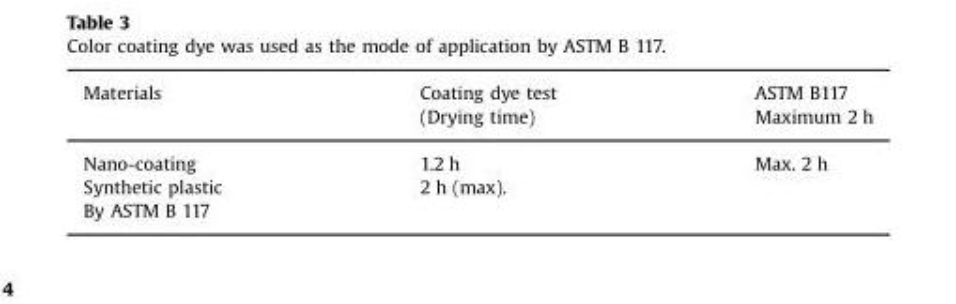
<table><thead><tr><td rowspan="2">Materials</td><td rowspan="2">Coating dye test (Drying time)</td><td rowspan="2">ASTM B117 Maximum 2 h</td></tr><tr></tr></thead><tbody><tr><td>Nano-coating</td><td>1.2 h</td><td>Max. 2 h</td></tr><tr><td>Synthetic plastic</td><td>2 h (max).</td><td></td></tr><tr><td>By ASTM B 117</td><td></td><td></td></tr></tbody></table>